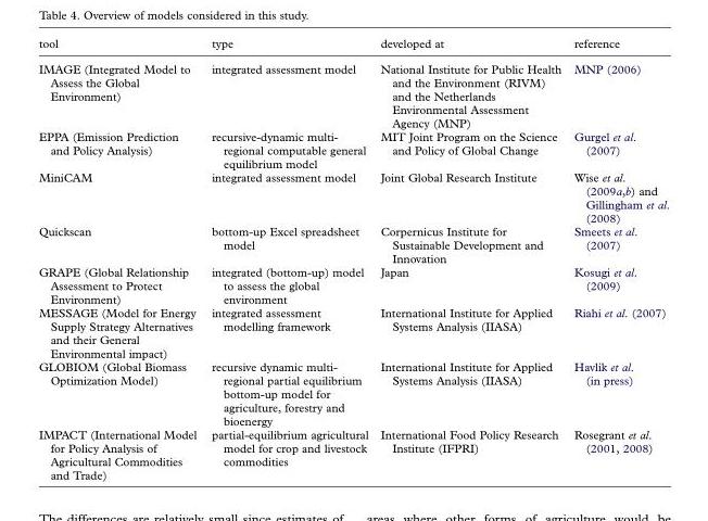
<table><thead><tr><td>tool</td><td>type</td><td>developed at</td><td>reference</td></tr></thead><tbody><tr><td>IMAGE (Integrated Model to Assess the Global Environment)</td><td>integrated assessment model</td><td>National Institute for Public Health and the Environment (RIVM) and the Netherlands Environmental Assessment Agency (MNP)</td><td>MNP (2006)</td></tr><tr><td>EPPA (Emission Prediction and Policy Analysis)</td><td>recursive-dynamic multi- regional computable general equilibrium model</td><td>MIT Joint Program on the Science and Policy of Global Change</td><td>Gurgel et al. (2007)</td></tr><tr><td>MiniCAM</td><td>integrated assessment model</td><td>Joint Global Research Institute</td><td>Wise et al. (2009a,b) and Gillingham et al. (2008)</td></tr><tr><td>Quickscan</td><td>bottom-up Excel spreadsheet model</td><td>Corpernicus Institute for Sustainable Development and Innovation</td><td>Smeets et al. (2007)</td></tr><tr><td>GRAPE (Global Relationship Assessment to Protect Environment)</td><td>integrated (bottom-up) model to assess the global environment</td><td>Japan</td><td>Kosugi et al. (2009)</td></tr><tr><td>MESSAGE (Model for Energy Supply Strategy Alternatives and their General Environmental impact)</td><td>integrated assessment modelling framework</td><td>International Institute for Applied Systems Analysis (IIASA)</td><td>Riahi et al. (2007)</td></tr><tr><td>GLOBIOM (Global Biomass Optimization Model)</td><td>recursive dynamic multi- regional partial equilibrium bottom-up model for agriculture, forestry and bioenergy</td><td>International Institute for Applied Systems Analysis (IIASA)</td><td>Havlı´k et al. (in press)</td></tr><tr><td>IMPACT (International Model for Policy Analysis of Agricultural Commodities and Trade)</td><td>partial-equilibrium agricultural model for crop and livestock commodities</td><td>International Food Policy Research Institute (IFPRI)</td><td>Rosegrant et al. (2001, 2008)</td></tr></tbody></table>